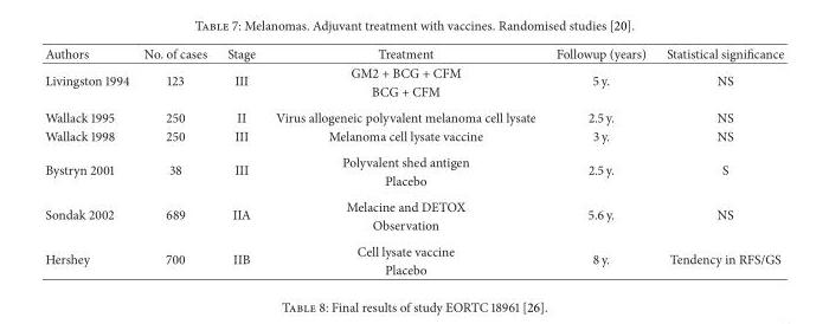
<table><thead><tr><td>Authors</td><td>No. of cases</td><td>Stage</td><td>Treatment</td><td>Followup (years)</td><td>Statistical significance</td></tr></thead><tbody><tr><td rowspan="2">Livingston 1994</td><td rowspan="2">123</td><td rowspan="2">III</td><td>GM2 + BCG + CFM</td><td rowspan="2">5 y.</td><td rowspan="2">NS</td></tr><tr><td>BCG + CFM</td></tr><tr><td>Wallack 1995</td><td>250</td><td>II</td><td>Virus allogeneic polyvalent melanoma cell lysate</td><td>2.5 y.</td><td>NS</td></tr><tr><td>Wallack 1998</td><td>250</td><td>III</td><td>Melanoma cell lysate vaccine</td><td>3 y.</td><td>NS</td></tr><tr><td rowspan="2">Bystryn 2001</td><td rowspan="2">38</td><td rowspan="2">III</td><td>Polyvalent shed antigen</td><td rowspan="2">2.5 y.</td><td rowspan="2">S</td></tr><tr><td>Placebo</td></tr><tr><td rowspan="2">Sondak 2002</td><td rowspan="2">689</td><td rowspan="2">IIA</td><td>Melacine and DETOX</td><td rowspan="2">5.6 y.</td><td rowspan="2">NS</td></tr><tr><td>Observation</td></tr><tr><td rowspan="2">Hershey</td><td rowspan="2">700</td><td rowspan="2">IIB</td><td>Cell lysate vaccine</td><td rowspan="2">8 y.</td><td rowspan="2">Tendency in RFS/GS</td></tr><tr><td>Placebo</td></tr></tbody></table>